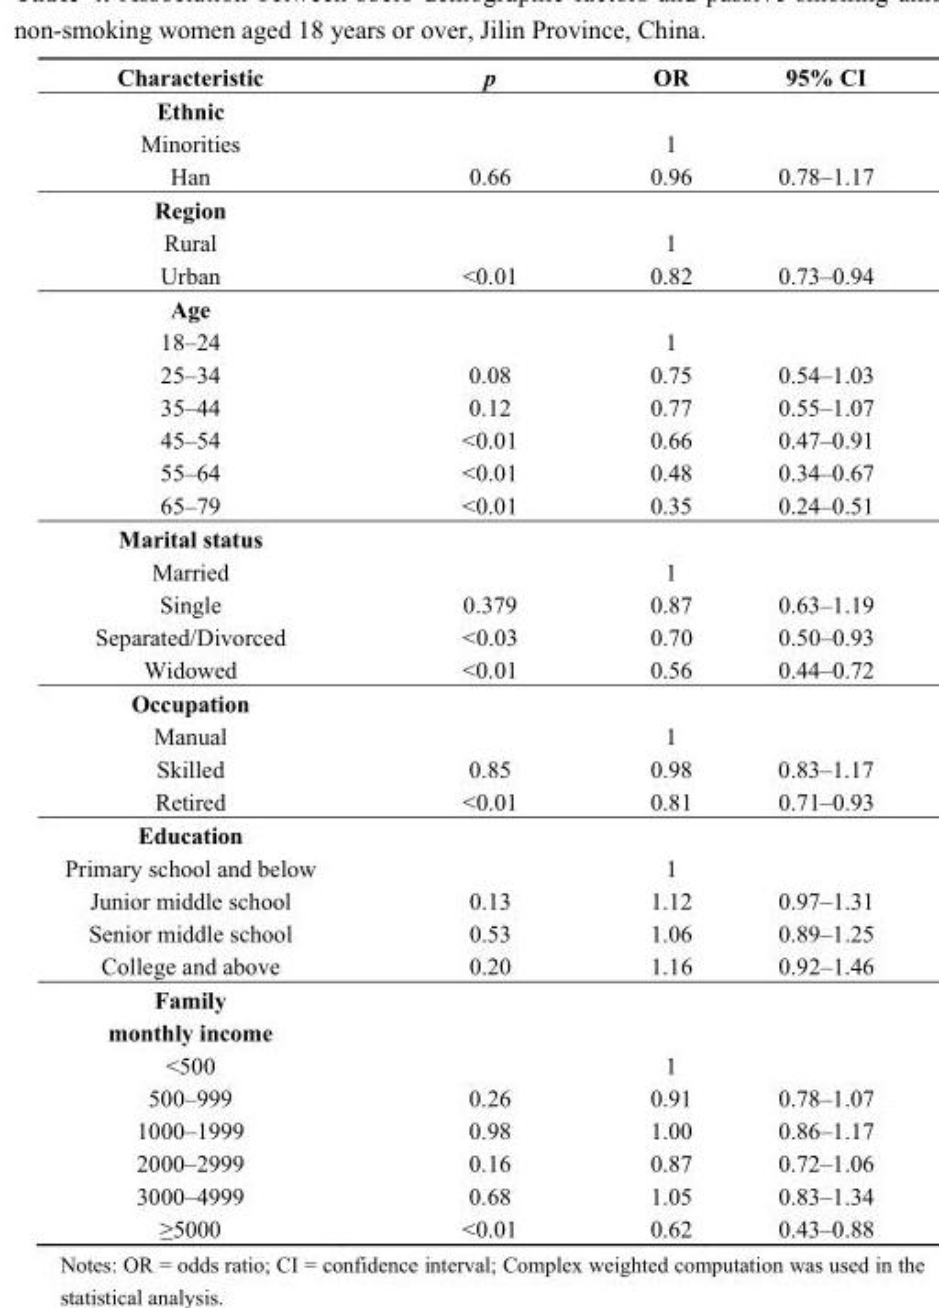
<table><thead><tr><td>Characteristic</td><td>p</td><td>OR</td><td>95% CI</td></tr></thead><tbody><tr><td colspan="4">Ethnic</td></tr><tr><td>Minorities</td><td></td><td>1</td><td></td></tr><tr><td>Han</td><td>0.66</td><td>0.96</td><td>0.78–1.17</td></tr><tr><td colspan="4">Region</td></tr><tr><td>Rural</td><td></td><td>1</td><td></td></tr><tr><td>Urban</td><td>&lt;0.01</td><td>0.82</td><td>0.73–0.94</td></tr><tr><td colspan="4">Age</td></tr><tr><td>18–24</td><td></td><td>1</td><td></td></tr><tr><td>25–34</td><td>0.08</td><td>0.75</td><td>0.54–1.03</td></tr><tr><td>35–44</td><td>0.12</td><td>0.77</td><td>0.55–1.07</td></tr><tr><td>45–54</td><td>&lt;0.01</td><td>0.66</td><td>0.47–0.91</td></tr><tr><td>55–64</td><td>&lt;0.01</td><td>0.48</td><td>0.34–0.67</td></tr><tr><td>65–79</td><td>&lt;0.01</td><td>0.35</td><td>0.24–0.51</td></tr><tr><td colspan="4">Marital status</td></tr><tr><td>Married</td><td></td><td>1</td><td></td></tr><tr><td>Single</td><td>0.379</td><td>0.87</td><td>0.63–1.19</td></tr><tr><td>Separated/Divorced</td><td>&lt;0.03</td><td>0.70</td><td>0.50–0.93</td></tr><tr><td>Widowed</td><td>&lt;0.01</td><td>0.56</td><td>0.44–0.72</td></tr><tr><td colspan="4">Occupation</td></tr><tr><td>Manual</td><td></td><td>1</td><td></td></tr><tr><td>Skilled</td><td>0.85</td><td>0.98</td><td>0.83–1.17</td></tr><tr><td>Retired</td><td>&lt;0.01</td><td>0.81</td><td>0.71–0.93</td></tr><tr><td colspan="4">Education</td></tr><tr><td>Primary school and below</td><td></td><td>1</td><td></td></tr><tr><td>Junior middle school</td><td>0.13</td><td>1.12</td><td>0.97–1.31</td></tr><tr><td>Senior middle school</td><td>0.53</td><td>1.06</td><td>0.89–1.25</td></tr><tr><td>College and above</td><td>0.20</td><td>1.16</td><td>0.92–1.46</td></tr><tr><td colspan="4">Family monthly income</td></tr><tr><td>&lt;500</td><td></td><td>1</td><td></td></tr><tr><td>500–999</td><td>0.26</td><td>0.91</td><td>0.78–1.07</td></tr><tr><td>1000–1999</td><td>0.98</td><td>1.00</td><td>0.86–1.17</td></tr><tr><td>2000–2999</td><td>0.16</td><td>0.87</td><td>0.72–1.06</td></tr><tr><td>3000–4999</td><td>0.68</td><td>1.05</td><td>0.83–1.34</td></tr><tr><td>≥5000</td><td>&lt;0.01</td><td>0.62</td><td>0.43–0.88</td></tr></tbody></table>